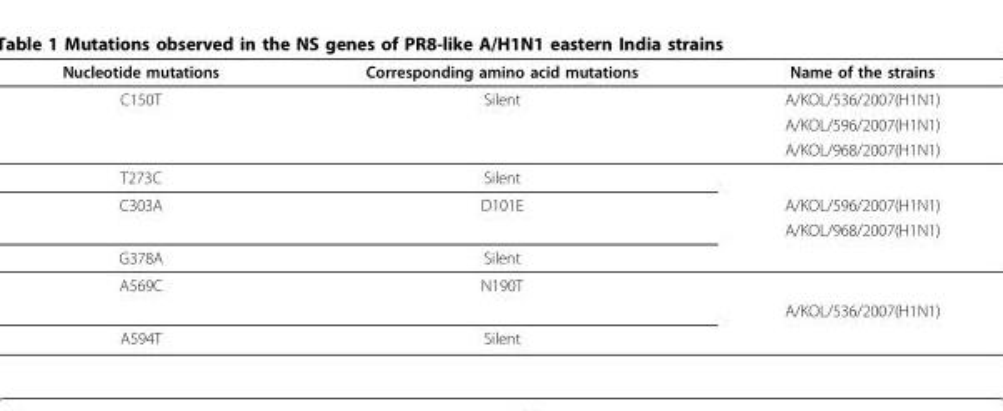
<table><thead><tr><td>Nucleotide mutations</td><td>Corresponding amino acid mutations</td><td>Name of the strains</td></tr></thead><tbody><tr><td rowspan="3">C150T</td><td>Silent</td><td>A/KOL/536/2007(H1N1)</td></tr><tr><td></td><td>A/KOL/596/2007(H1N1)</td></tr><tr><td></td><td>A/KOL/968/2007(H1N1)</td></tr><tr><td>T273C</td><td>Silent</td><td></td></tr><tr><td rowspan="2">C303A</td><td>D101E</td><td>A/KOL/596/2007(H1N1)</td></tr><tr><td></td><td>A/KOL/968/2007(H1N1)</td></tr><tr><td>G378A</td><td>Silent</td><td></td></tr><tr><td rowspan="2">A569C</td><td>N190T</td><td></td></tr><tr><td></td><td>A/KOL/536/2007(H1N1)</td></tr><tr><td>A594T</td><td>Silent</td><td></td></tr></tbody></table>